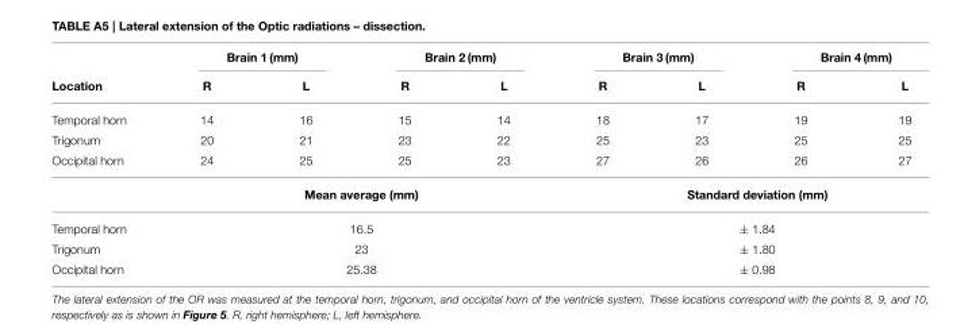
<table><thead><tr><td rowspan="2">Location</td><td colspan="2">Brain 1 (mm)</td><td colspan="2">Brain 2 (mm)</td><td colspan="2">Brain 3 (mm)</td><td colspan="2">Brain 4 (mm)</td></tr><tr><td>R</td><td>L</td><td>R</td><td>L</td><td>R</td><td>L</td><td>R</td><td>L</td></tr></thead><tbody><tr><td>Temporal horn</td><td>14</td><td>16</td><td>15</td><td>14</td><td>18</td><td>17</td><td>19</td><td>19</td></tr><tr><td>Trigonum</td><td>20</td><td>21</td><td>23</td><td>22</td><td>25</td><td>23</td><td>25</td><td>25</td></tr><tr><td rowspan="2">Occipital horn</td><td>24</td><td>25</td><td>25</td><td>23</td><td>27</td><td>26</td><td>26</td><td>27</td></tr><tr><td colspan="4">Mean average (mm)</td><td colspan="4">Standard deviation (mm)</td></tr><tr><td>Temporal horn</td><td colspan="4">16.5</td><td colspan="4">± 1.84</td></tr><tr><td>Trigonum</td><td colspan="4">23</td><td colspan="4">± 1.80</td></tr><tr><td>Occipital horn</td><td colspan="4">25.38</td><td colspan="4">± 0.98</td></tr></tbody></table>